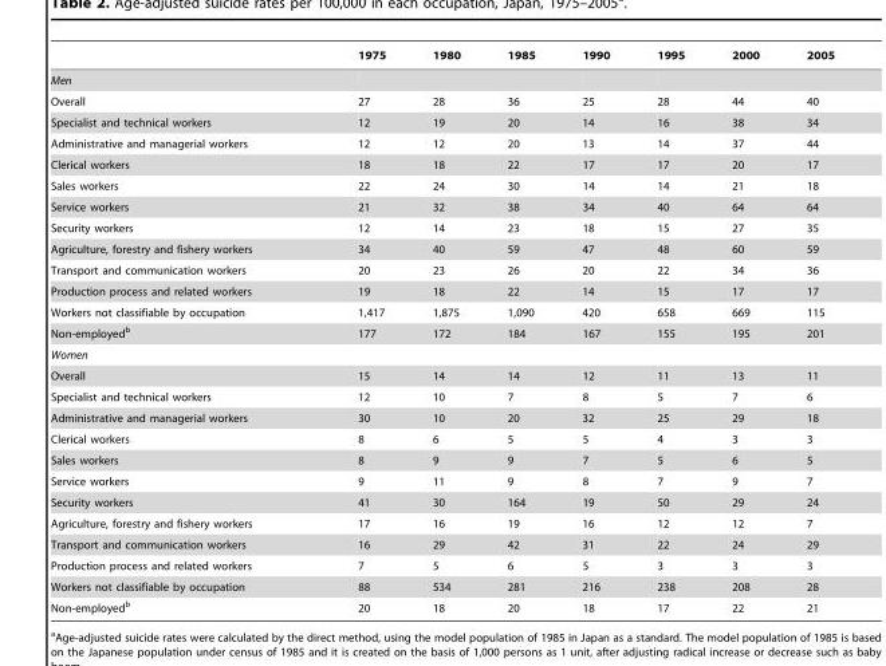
<table><thead><tr><td></td><td>1975</td><td>1980</td><td>1985</td><td>1990</td><td>1995</td><td>2000</td><td>2005</td></tr></thead><tbody><tr><td colspan="8">Men</td></tr><tr><td>Overall</td><td>27</td><td>28</td><td>36</td><td>25</td><td>28</td><td>44</td><td>40</td></tr><tr><td>Specialist and technical workers</td><td>12</td><td>19</td><td>20</td><td>14</td><td>16</td><td>38</td><td>34</td></tr><tr><td>Administrative and managerial workers</td><td>12</td><td>12</td><td>20</td><td>13</td><td>14</td><td>37</td><td>44</td></tr><tr><td>Clerical workers</td><td>18</td><td>18</td><td>22</td><td>17</td><td>17</td><td>20</td><td>17</td></tr><tr><td>Sales workers</td><td>22</td><td>24</td><td>30</td><td>14</td><td>14</td><td>21</td><td>18</td></tr><tr><td>Service workers</td><td>21</td><td>32</td><td>38</td><td>34</td><td>40</td><td>64</td><td>64</td></tr><tr><td>Security workers</td><td>12</td><td>14</td><td>23</td><td>18</td><td>15</td><td>27</td><td>35</td></tr><tr><td>Agriculture, forestry and fishery workers</td><td>34</td><td>40</td><td>59</td><td>47</td><td>48</td><td>60</td><td>59</td></tr><tr><td>Transport and communication workers</td><td>20</td><td>23</td><td>26</td><td>20</td><td>22</td><td>34</td><td>36</td></tr><tr><td>Production process and related workers</td><td>19</td><td>18</td><td>22</td><td>14</td><td>15</td><td>17</td><td>17</td></tr><tr><td>Workers not classifiable by occupation</td><td>1,417</td><td>1,875</td><td>1,090</td><td>420</td><td>658</td><td>669</td><td>115</td></tr><tr><td>Non-employed<sup>b</sup></td><td>177</td><td>172</td><td>184</td><td>167</td><td>155</td><td>195</td><td>201</td></tr><tr><td colspan="8">Women</td></tr><tr><td>Overall</td><td>15</td><td>14</td><td>14</td><td>12</td><td>11</td><td>13</td><td>11</td></tr><tr><td>Specialist and technical workers</td><td>12</td><td>10</td><td>7</td><td>8</td><td>5</td><td>7</td><td>6</td></tr><tr><td>Administrative and managerial workers</td><td>30</td><td>10</td><td>20</td><td>32</td><td>25</td><td>29</td><td>18</td></tr><tr><td>Clerical workers</td><td>8</td><td>6</td><td>5</td><td>5</td><td>4</td><td>3</td><td>3</td></tr><tr><td>Sales workers</td><td>8</td><td>9</td><td>9</td><td>7</td><td>5</td><td>6</td><td>5</td></tr><tr><td>Service workers</td><td>9</td><td>11</td><td>9</td><td>8</td><td>7</td><td>9</td><td>7</td></tr><tr><td>Security workers</td><td>41</td><td>30</td><td>164</td><td>19</td><td>50</td><td>29</td><td>24</td></tr><tr><td>Agriculture, forestry and fishery workers</td><td>17</td><td>16</td><td>19</td><td>16</td><td>12</td><td>12</td><td>7</td></tr><tr><td>Transport and communication workers</td><td>16</td><td>29</td><td>42</td><td>31</td><td>22</td><td>24</td><td>29</td></tr><tr><td>Production process and related workers</td><td>7</td><td>5</td><td>6</td><td>5</td><td>3</td><td>3</td><td>3</td></tr><tr><td>Workers not classifiable by occupation</td><td>88</td><td>534</td><td>281</td><td>216</td><td>238</td><td>208</td><td>28</td></tr><tr><td>Non-employed<sup>b</sup></td><td>20</td><td>18</td><td>20</td><td>18</td><td>17</td><td>22</td><td>21</td></tr></tbody></table>